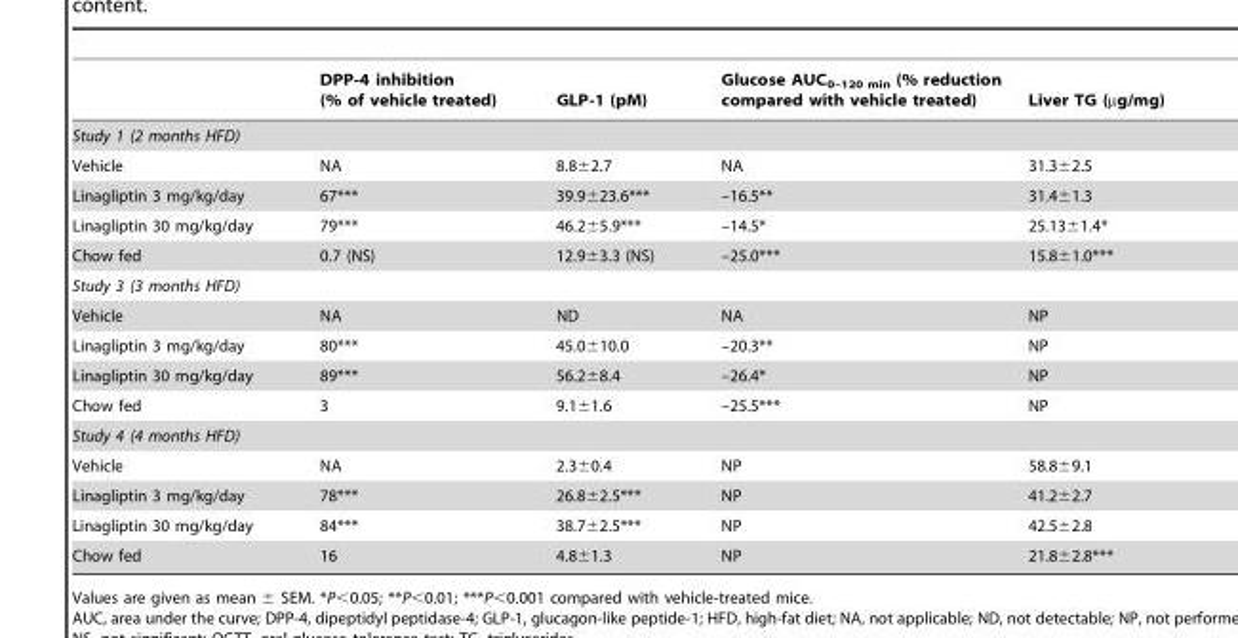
<table><thead><tr><td></td><td>DPP-4 inhibition (% of vehicle treated)</td><td>GLP-1 (pM)</td><td>Glucose AUC<sub>0–120 min</sub> (% reduction compared with vehicle treated)</td><td>Liver TG (µg/mg)</td></tr></thead><tbody><tr><td colspan="5">Study 1 (2 months HFD)</td></tr><tr><td>Vehicle</td><td>NA</td><td>8.8±2.7</td><td>NA</td><td>31.3±2.5</td></tr><tr><td>Linagliptin 3 mg/kg/day</td><td>67***</td><td>39.9±23.6***</td><td>–16.5**</td><td>31.4±1.3</td></tr><tr><td>Linagliptin 30 mg/kg/day</td><td>79***</td><td>46.2±5.9***</td><td>–14.5*</td><td>25.13±1.4*</td></tr><tr><td>Chow fed</td><td>0.7 (NS)</td><td>12.9±3.3 (NS)</td><td>–25.0***</td><td>15.8±1.0***</td></tr><tr><td colspan="5">Study 3 (3 months HFD)</td></tr><tr><td>Vehicle</td><td>NA</td><td>ND</td><td>NA</td><td>NP</td></tr><tr><td>Linagliptin 3 mg/kg/day</td><td>80***</td><td>45.0±10.0</td><td>–20.3**</td><td>NP</td></tr><tr><td>Linagliptin 30 mg/kg/day</td><td>89***</td><td>56.2±8.4</td><td>–26.4*</td><td>NP</td></tr><tr><td>Chow fed</td><td>3</td><td>9.1±1.6</td><td>–25.5***</td><td>NP</td></tr><tr><td colspan="5">Study 4 (4 months HFD)</td></tr><tr><td>Vehicle</td><td>NA</td><td>2.3±0.4</td><td>NP</td><td>58.8±9.1</td></tr><tr><td>Linagliptin 3 mg/kg/day</td><td>78***</td><td>26.8±2.5***</td><td>NP</td><td>41.2±2.7</td></tr><tr><td>Linagliptin 30 mg/kg/day</td><td>84***</td><td>38.7±2.5***</td><td>NP</td><td>42.5±2.8</td></tr><tr><td>Chow fed</td><td>16</td><td>4.8±1.3</td><td>NP</td><td>21.8±2.8***</td></tr></tbody></table>